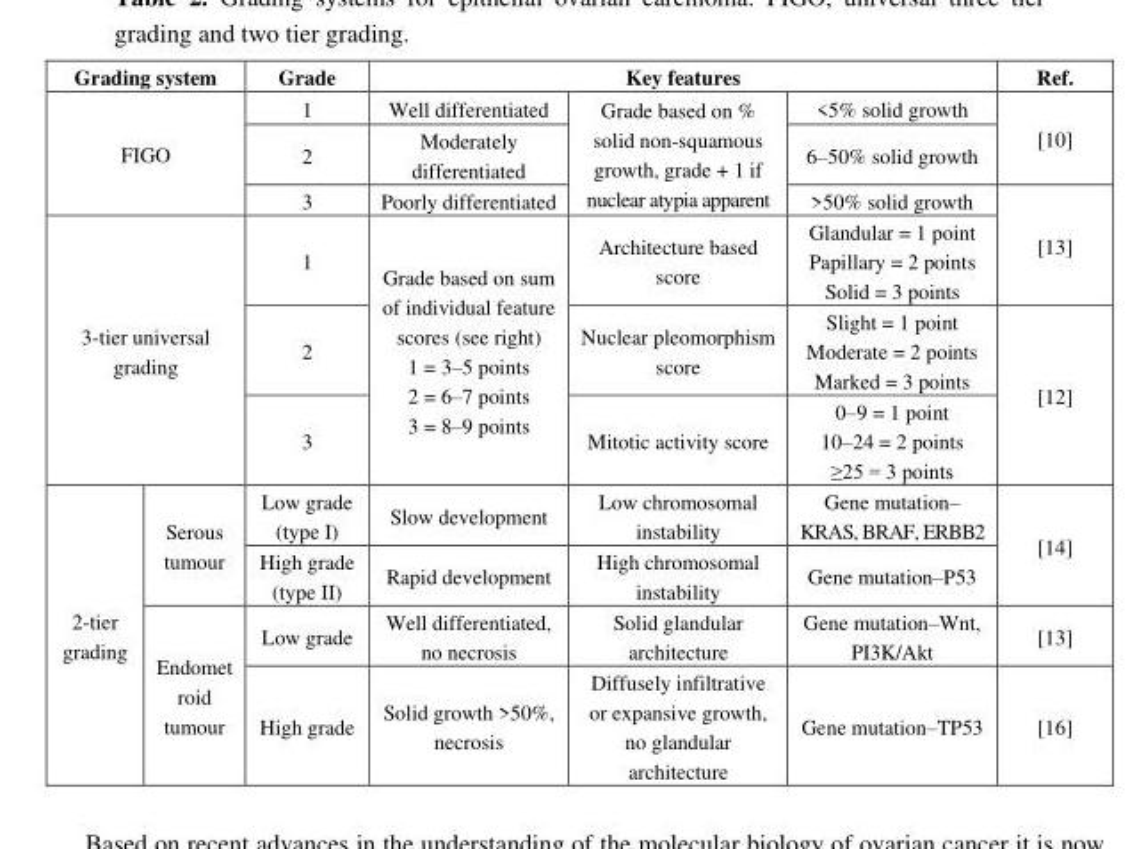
<table><thead><tr><td colspan="2">Grading system</td><td>Grade</td><td colspan="3">Key features</td><td>Ref.</td></tr></thead><tbody><tr><td rowspan="3" colspan="2">FIGO</td><td>1</td><td>Well differentiated</td><td rowspan="3">Grade based on % solid non-squamous growth, grade + 1 if nuclear atypia apparent</td><td>&lt;5% solid growth</td><td rowspan="2">[10]</td></tr><tr><td>2</td><td>Moderately differentiated</td><td>6–50% solid growth</td></tr><tr><td>3</td><td>Poorly differentiated</td><td>&gt;50% solid growth</td><td rowspan="2">[13]</td></tr><tr><td rowspan="3" colspan="2">3-tier universal grading</td><td>1</td><td rowspan="3">Grade based on sum of individual feature scores (see right) 1 = 3–5 points 2 = 6–7 points 3 = 8–9 points</td><td>Architecture based score</td><td>Glandular = 1 point Papillary = 2 points Solid = 3 points</td></tr><tr><td>2</td><td>Nuclear pleomorphism score</td><td>Slight = 1 point Moderate = 2 points Marked = 3 points</td><td rowspan="2">[12]</td></tr><tr><td>3</td><td>Mitotic activity score</td><td>0–9 = 1 point 10–24 = 2 points ≥25 = 3 points</td></tr><tr><td rowspan="4">2-tier grading</td><td rowspan="2">Serous tumour</td><td>Low grade (type I)</td><td>Slow development</td><td>Low chromosomal instability</td><td>Gene mutation– KRAS, BRAF, ERBB2</td><td rowspan="2">[14]</td></tr><tr><td>High grade (type II)</td><td>Rapid development</td><td>High chromosomal instability</td><td>Gene mutation–P53</td></tr><tr><td rowspan="2">Endomet roid tumour</td><td>Low grade</td><td>Well differentiated, no necrosis</td><td>Solid glandular architecture</td><td>Gene mutation–Wnt, PI3K/Akt</td><td>[13]</td></tr><tr><td>High grade</td><td>Solid growth &gt;50%, necrosis</td><td>Diffusely infiltrative or expansive growth, no glandular architecture</td><td>Gene mutation–TP53</td><td>[16]</td></tr></tbody></table>